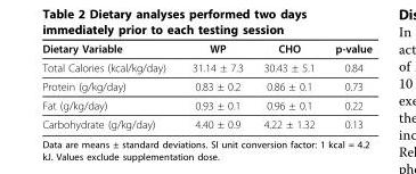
<table><thead><tr><td>Dietary Variable</td><td>WP</td><td>CHO</td><td>p-value</td></tr></thead><tbody><tr><td>Total Calories (kcal/kg/day)</td><td>31.14 ± 7.3</td><td>30.43 ± 5.1</td><td>0.84</td></tr><tr><td>Protein (g/kg/day)</td><td>0.83 ± 0.2</td><td>0.86 ± 0.1</td><td>0.73</td></tr><tr><td>Fat (g/kg/day)</td><td>0.93 ± 0.1</td><td>0.96 ± 0.1</td><td>0.22</td></tr><tr><td>Carbohydrate (g/kg/day)</td><td>4.40 ± 0.9</td><td>4.22 ± 1.32</td><td>0.13</td></tr></tbody></table>